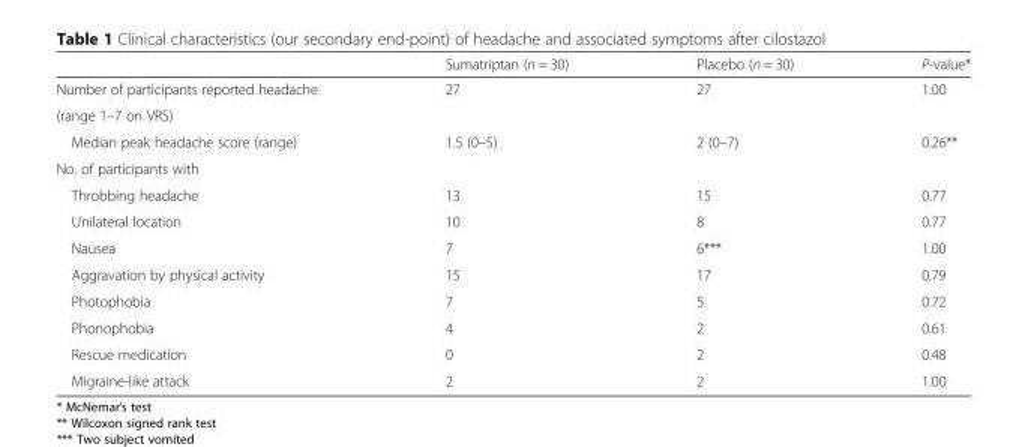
<table><thead><tr><td></td><td>Sumatriptan (n = 30)</td><td>Placebo (n = 30)</td><td>P-value*</td></tr></thead><tbody><tr><td>Number of participants reported headache</td><td>27</td><td>27</td><td>1.00</td></tr><tr><td colspan="4">(range 1–7 on VRS)</td></tr><tr><td>Median peak headache score (range)</td><td>1.5 (0–5)</td><td>2 (0–7)</td><td>0.26**</td></tr><tr><td colspan="4">No. of participants with</td></tr><tr><td>Throbbing headache</td><td>13</td><td>15</td><td>0.77</td></tr><tr><td>Unilateral location</td><td>10</td><td>8</td><td>0.77</td></tr><tr><td>Nausea</td><td>7</td><td>6***</td><td>1.00</td></tr><tr><td>Aggravation by physical activity</td><td>15</td><td>17</td><td>0.79</td></tr><tr><td>Photophobia</td><td>7</td><td>5</td><td>0.72</td></tr><tr><td>Phonophobia</td><td>4</td><td>2</td><td>0.61</td></tr><tr><td>Rescue medication</td><td>0</td><td>2</td><td>0.48</td></tr><tr><td>Migraine-like attack</td><td>2</td><td>2</td><td>1.00</td></tr></tbody></table>